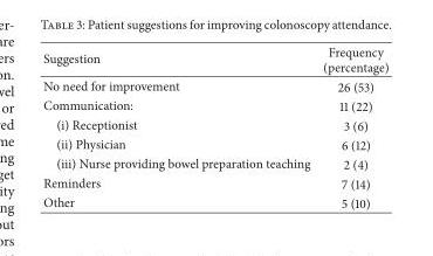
<table><thead><tr><td>Suggestion</td><td>Frequency (percentage)</td></tr></thead><tbody><tr><td>No need for improvement</td><td>26 (53)</td></tr><tr><td>Communication:</td><td>11 (22)</td></tr><tr><td>(i) Receptionist</td><td>3 (6)</td></tr><tr><td>(ii) Physician</td><td>6 (12)</td></tr><tr><td>(iii) Nurse providing bowel preparation teaching</td><td>2 (4)</td></tr><tr><td>Reminders</td><td>7 (14)</td></tr><tr><td>Other</td><td>5 (10)</td></tr></tbody></table>